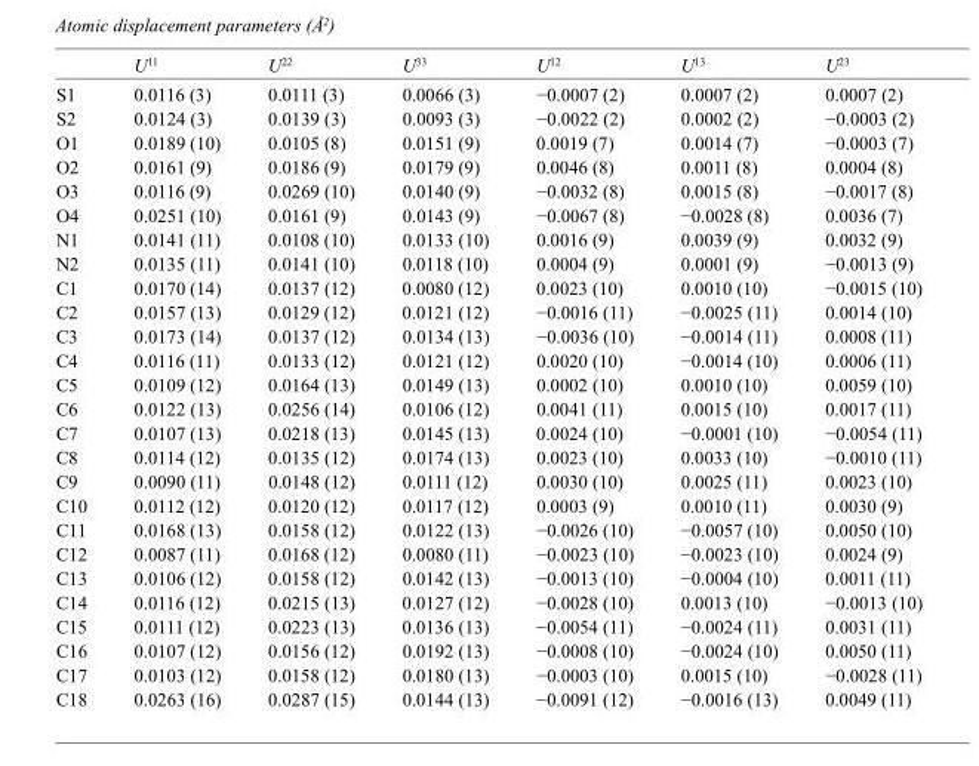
<table><thead><tr><td></td><td>U<sup>11</sup></td><td>U<sup>22</sup></td><td>U<sup>33</sup></td><td>U<sup>12</sup></td><td>U<sup>13</sup></td><td>U<sup>23</sup></td></tr></thead><tbody><tr><td>S1</td><td>0.0116 (3)</td><td>0.0111 (3)</td><td>0.0066 (3)</td><td>−0.0007 (2)</td><td>0.0007 (2)</td><td>0.0007 (2)</td></tr><tr><td>S2</td><td>0.0124 (3)</td><td>0.0139 (3)</td><td>0.0093 (3)</td><td>−0.0022 (2)</td><td>0.0002 (2)</td><td>−0.0003 (2)</td></tr><tr><td>O1</td><td>0.0189 (10)</td><td>0.0105 (8)</td><td>0.0151 (9)</td><td>0.0019 (7)</td><td>0.0014 (7)</td><td>−0.0003 (7)</td></tr><tr><td>O2</td><td>0.0161 (9)</td><td>0.0186 (9)</td><td>0.0179 (9)</td><td>0.0046 (8)</td><td>0.0011 (8)</td><td>0.0004 (8)</td></tr><tr><td>O3</td><td>0.0116 (9)</td><td>0.0269 (10)</td><td>0.0140 (9)</td><td>−0.0032 (8)</td><td>0.0015 (8)</td><td>−0.0017 (8)</td></tr><tr><td>O4</td><td>0.0251 (10)</td><td>0.0161 (9)</td><td>0.0143 (9)</td><td>−0.0067 (8)</td><td>−0.0028 (8)</td><td>0.0036 (7)</td></tr><tr><td>N1</td><td>0.0141 (11)</td><td>0.0108 (10)</td><td>0.0133 (10)</td><td>0.0016 (9)</td><td>0.0039 (9)</td><td>0.0032 (9)</td></tr><tr><td>N2</td><td>0.0135 (11)</td><td>0.0141 (10)</td><td>0.0118 (10)</td><td>0.0004 (9)</td><td>0.0001 (9)</td><td>−0.0013 (9)</td></tr><tr><td>C1</td><td>0.0170 (14)</td><td>0.0137 (12)</td><td>0.0080 (12)</td><td>0.0023 (10)</td><td>0.0010 (10)</td><td>−0.0015 (10)</td></tr><tr><td>C2</td><td>0.0157 (13)</td><td>0.0129 (12)</td><td>0.0121 (12)</td><td>−0.0016 (11)</td><td>−0.0025 (11)</td><td>0.0014 (10)</td></tr><tr><td>C3</td><td>0.0173 (14)</td><td>0.0137 (12)</td><td>0.0134 (13)</td><td>−0.0036 (10)</td><td>−0.0014 (11)</td><td>0.0008 (11)</td></tr><tr><td>C4</td><td>0.0116 (11)</td><td>0.0133 (12)</td><td>0.0121 (12)</td><td>0.0020 (10)</td><td>−0.0014 (10)</td><td>0.0006 (11)</td></tr><tr><td>C5</td><td>0.0109 (12)</td><td>0.0164 (13)</td><td>0.0149 (13)</td><td>0.0002 (10)</td><td>0.0010 (10)</td><td>0.0059 (10)</td></tr><tr><td>C6</td><td>0.0122 (13)</td><td>0.0256 (14)</td><td>0.0106 (12)</td><td>0.0041 (11)</td><td>0.0015 (10)</td><td>0.0017 (11)</td></tr><tr><td>C7</td><td>0.0107 (13)</td><td>0.0218 (13)</td><td>0.0145 (13)</td><td>0.0024 (10)</td><td>−0.0001 (10)</td><td>−0.0054 (11)</td></tr><tr><td>C8</td><td>0.0114 (12)</td><td>0.0135 (12)</td><td>0.0174 (13)</td><td>0.0023 (10)</td><td>0.0033 (10)</td><td>−0.0010 (11)</td></tr><tr><td>C9</td><td>0.0090 (11)</td><td>0.0148 (12)</td><td>0.0111 (12)</td><td>0.0030 (10)</td><td>0.0025 (11)</td><td>0.0023 (10)</td></tr><tr><td>C10</td><td>0.0112 (12)</td><td>0.0120 (12)</td><td>0.0117 (12)</td><td>0.0003 (9)</td><td>0.0010 (11)</td><td>0.0030 (9)</td></tr><tr><td>C11</td><td>0.0168 (13)</td><td>0.0158 (12)</td><td>0.0122 (13)</td><td>−0.0026 (10)</td><td>−0.0057 (10)</td><td>0.0050 (10)</td></tr><tr><td>C12</td><td>0.0087 (11)</td><td>0.0168 (12)</td><td>0.0080 (11)</td><td>−0.0023 (10)</td><td>−0.0023 (10)</td><td>0.0024 (9)</td></tr><tr><td>C13</td><td>0.0106 (12)</td><td>0.0158 (12)</td><td>0.0142 (13)</td><td>−0.0013 (10)</td><td>−0.0004 (10)</td><td>0.0011 (11)</td></tr><tr><td>C14</td><td>0.0116 (12)</td><td>0.0215 (13)</td><td>0.0127 (12)</td><td>−0.0028 (10)</td><td>0.0013 (10)</td><td>−0.0013 (10)</td></tr><tr><td>C15</td><td>0.0111 (12)</td><td>0.0223 (13)</td><td>0.0136 (13)</td><td>−0.0054 (11)</td><td>−0.0024 (11)</td><td>0.0031 (11)</td></tr><tr><td>C16</td><td>0.0107 (12)</td><td>0.0156 (12)</td><td>0.0192 (13)</td><td>−0.0008 (10)</td><td>−0.0024 (10)</td><td>0.0050 (11)</td></tr><tr><td>C17</td><td>0.0103 (12)</td><td>0.0158 (12)</td><td>0.0180 (13)</td><td>−0.0003 (10)</td><td>0.0015 (10)</td><td>−0.0028 (11)</td></tr><tr><td>C18</td><td>0.0263 (16)</td><td>0.0287 (15)</td><td>0.0144 (13)</td><td>−0.0091 (12)</td><td>−0.0016 (13)</td><td>0.0049 (11)</td></tr></tbody></table>